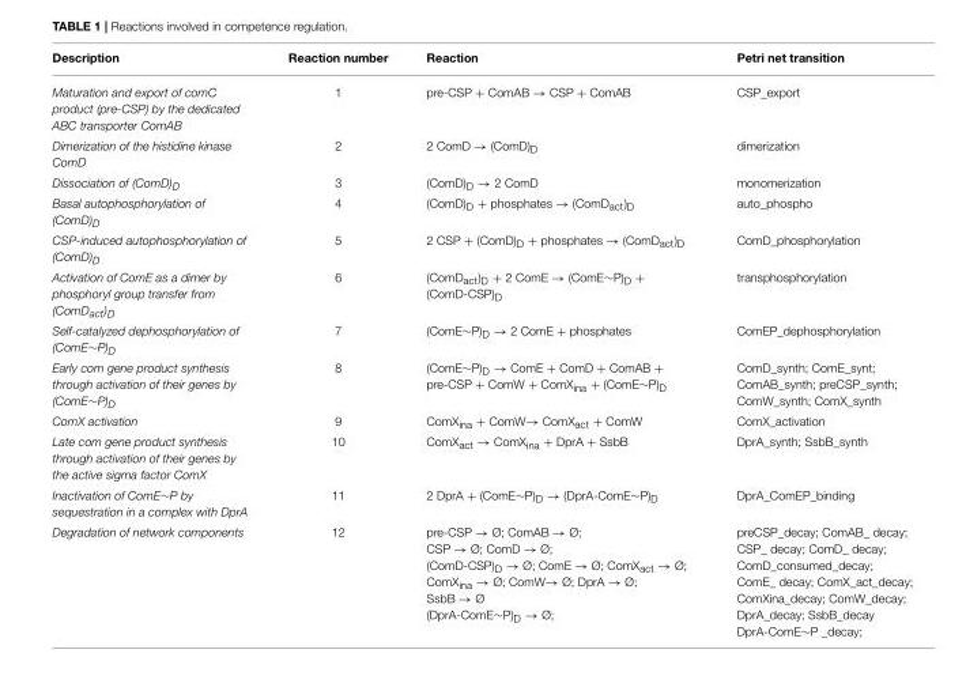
<table><thead><tr><td>Description</td><td>Reaction number</td><td>Reaction</td><td>Petri net transition</td></tr></thead><tbody><tr><td>Maturation and export of comC product (pre-CSP) by the dedicated ABC transporter ComAB</td><td>1</td><td>pre-CSP + ComAB → CSP + ComAB</td><td>CSP_export</td></tr><tr><td>Dimerization of the histidine kinase ComD</td><td>2</td><td>2 ComD → (ComD)<sub>D</sub></td><td>dimerization</td></tr><tr><td>Dissociation of (ComD)D</td><td>3</td><td>(ComD)<sub>D</sub> → 2 ComD</td><td>monomerization</td></tr><tr><td>Basal autophosphorylation of (ComD)D</td><td>4</td><td>(ComD)<sub>D</sub> + phosphates → (ComD<sub>act</sub>)<sub>D</sub></td><td>auto_phospho</td></tr><tr><td>CSP-induced autophosphorylation of (ComD)D</td><td>5</td><td>2 CSP + (ComD)<sub>D</sub> + phosphates → (ComD<sub>act</sub>)<sub>D</sub></td><td>ComD_phosphorylation</td></tr><tr><td>Activation of ComE as a dimer by phosphoryl group transfer from (ComDact)D</td><td>6</td><td>(ComDact)D + 2 ComE → (ComE∼P)D + (ComD-CSP)D</td><td>transphosphorylation</td></tr><tr><td>Self-catalyzed dephosphorylation of (ComE∼P)D</td><td>7</td><td>(ComE∼P)D → 2 ComE + phosphates</td><td>ComEP_dephosphorylation</td></tr><tr><td>Early com gene product synthesis through activation of their genes by (ComE∼P)D</td><td>8</td><td>(ComE∼P)D → ComE + ComD + ComAB + pre-CSP + ComW + ComXina + (ComE∼P)D</td><td>ComD_synth; ComE_synt; ComAB_synth; preCSP_synth; ComW_synth; ComX_synth</td></tr><tr><td>ComX activation</td><td>9</td><td>ComX<sub>ina</sub> + ComW→ ComX<sub>act</sub> + ComW</td><td>ComX_activation</td></tr><tr><td>Late com gene product synthesis through activation of their genes by the active sigma factor ComX</td><td>10</td><td>ComX<sub>act</sub> → ComX<sub>ina</sub> + DprA + SsbB</td><td>DprA_synth; SsbB_synth</td></tr><tr><td>Inactivation of ComE∼P by sequestration in a complex with DprA</td><td>11</td><td>2 DprA + (ComE∼P)D → (DprA-ComE∼P)D</td><td>DprA_ComEP_binding</td></tr><tr><td>Degradation of network components</td><td>12</td><td>pre-CSP → Ø; ComAB → Ø; CSP → Ø; ComD → Ø; (ComD-CSP)D → Ø; ComE → Ø; ComXact → Ø; ComXina → Ø; ComW→ Ø; DprA → Ø; SsbB → Ø (DprA-ComE∼P)D → Ø;</td><td>preCSP_decay; ComAB_ decay; CSP_ decay; ComD_ decay; ComD_consumed_decay; ComE_ decay; ComX_act_decay; ComXina_decay; ComW_decay; DprA_decay; SsbB_decay DprA-ComE∼P _decay;</td></tr></tbody></table>